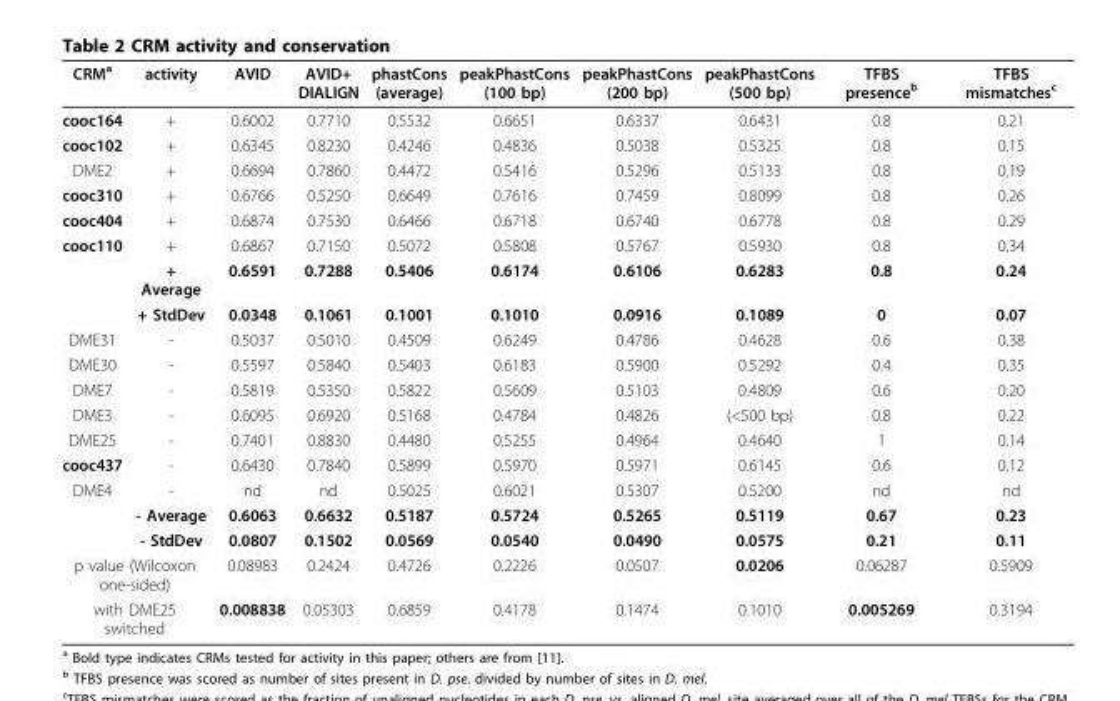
<table><thead><tr><td>CRM<sup>a</sup></td><td>activity</td><td>AVID</td><td>AVID+ DIALIGN</td><td>phastCons (average)</td><td>peakPhastCons (100 bp)</td><td>peakPhastCons (200 bp)</td><td>peakPhastCons (500 bp)</td><td>TFBS presence<sup>b</sup></td><td>TFBS mismatches<sup>c</sup></td></tr></thead><tbody><tr><td>cooc164</td><td>+</td><td>0.6002</td><td>0.7710</td><td>0.5532</td><td>0.6651</td><td>0.6337</td><td>0.6431</td><td>0.8</td><td>0.21</td></tr><tr><td>cooc102</td><td>+</td><td>0.6345</td><td>0.8230</td><td>0.4246</td><td>0.4836</td><td>0.5038</td><td>0.5325</td><td>0.8</td><td>0.15</td></tr><tr><td>DME2</td><td>+</td><td>0.6694</td><td>0.7860</td><td>0.4472</td><td>0.5416</td><td>0.5296</td><td>0.5133</td><td>0.8</td><td>0.19</td></tr><tr><td>cooc310</td><td>+</td><td>0.6766</td><td>0.5250</td><td>0.6649</td><td>0.7616</td><td>0.7459</td><td>0.8099</td><td>0.8</td><td>0.26</td></tr><tr><td>cooc404</td><td>+</td><td>0.6874</td><td>0.7530</td><td>0.6466</td><td>0.6718</td><td>0.6740</td><td>0.6778</td><td>0.8</td><td>0.29</td></tr><tr><td rowspan="3">cooc110</td><td>+</td><td>0.6867</td><td>0.7150</td><td>0.5072</td><td>0.5808</td><td>0.5767</td><td>0.5930</td><td>0.8</td><td>0.34</td></tr><tr><td>+ Average</td><td>0.6591</td><td>0.7288</td><td>0.5406</td><td>0.6174</td><td>0.6106</td><td>0.6283</td><td>0.8</td><td>0.24</td></tr><tr><td>+ StdDev</td><td>0.0348</td><td>0.1061</td><td>0.1001</td><td>0.1010</td><td>0.0916</td><td>0.1089</td><td>0</td><td>0.07</td></tr><tr><td>DME31</td><td>-</td><td>0.5037</td><td>0.5010</td><td>0.4509</td><td>0.6249</td><td>0.4786</td><td>0.4628</td><td>0.6</td><td>0.38</td></tr><tr><td>DME30</td><td>-</td><td>0.5597</td><td>0.5840</td><td>0.5403</td><td>0.6183</td><td>0.5900</td><td>0.5292</td><td>0.4</td><td>0.35</td></tr><tr><td>DME7</td><td>-</td><td>0.5819</td><td>0.5350</td><td>0.5822</td><td>0.5609</td><td>0.5103</td><td>0.4809</td><td>0.6</td><td>0.20</td></tr><tr><td>DME3</td><td>-</td><td>0.6095</td><td>0.6920</td><td>0.5168</td><td>0.4784</td><td>0.4826</td><td>(&lt;500 bp)</td><td>0.8</td><td>0.22</td></tr><tr><td>DME25</td><td>-</td><td>0.7401</td><td>0.8830</td><td>0.4480</td><td>0.5255</td><td>0.4964</td><td>0.4640</td><td>1</td><td>0.14</td></tr><tr><td>cooc437</td><td>-</td><td>0.6430</td><td>0.7840</td><td>0.5899</td><td>0.5970</td><td>0.5971</td><td>0.6145</td><td>0.6</td><td>0.12</td></tr><tr><td rowspan="3">DME4</td><td>-</td><td>nd</td><td>nd</td><td>0.5025</td><td>0.6021</td><td>0.5307</td><td>0.5200</td><td>nd</td><td>nd</td></tr><tr><td>- Average</td><td>0.6063</td><td>0.6632</td><td>0.5187</td><td>0.5724</td><td>0.5265</td><td>0.5119</td><td>0.67</td><td>0.23</td></tr><tr><td>- StdDev</td><td>0.0807</td><td>0.1502</td><td>0.0569</td><td>0.0540</td><td>0.0490</td><td>0.0575</td><td>0.21</td><td>0.11</td></tr><tr><td colspan="2">p value (Wilcoxon one-sided)</td><td>0.08983</td><td>0.2424</td><td>0.4726</td><td>0.2226</td><td>0.0507</td><td>0.0206</td><td>0.06287</td><td>0.5909</td></tr><tr><td colspan="2">with DME25 switched</td><td>0.008838</td><td>0.05303</td><td>0.6859</td><td>0.4178</td><td>0.1474</td><td>0.1010</td><td>0.005269</td><td>0.3194</td></tr></tbody></table>